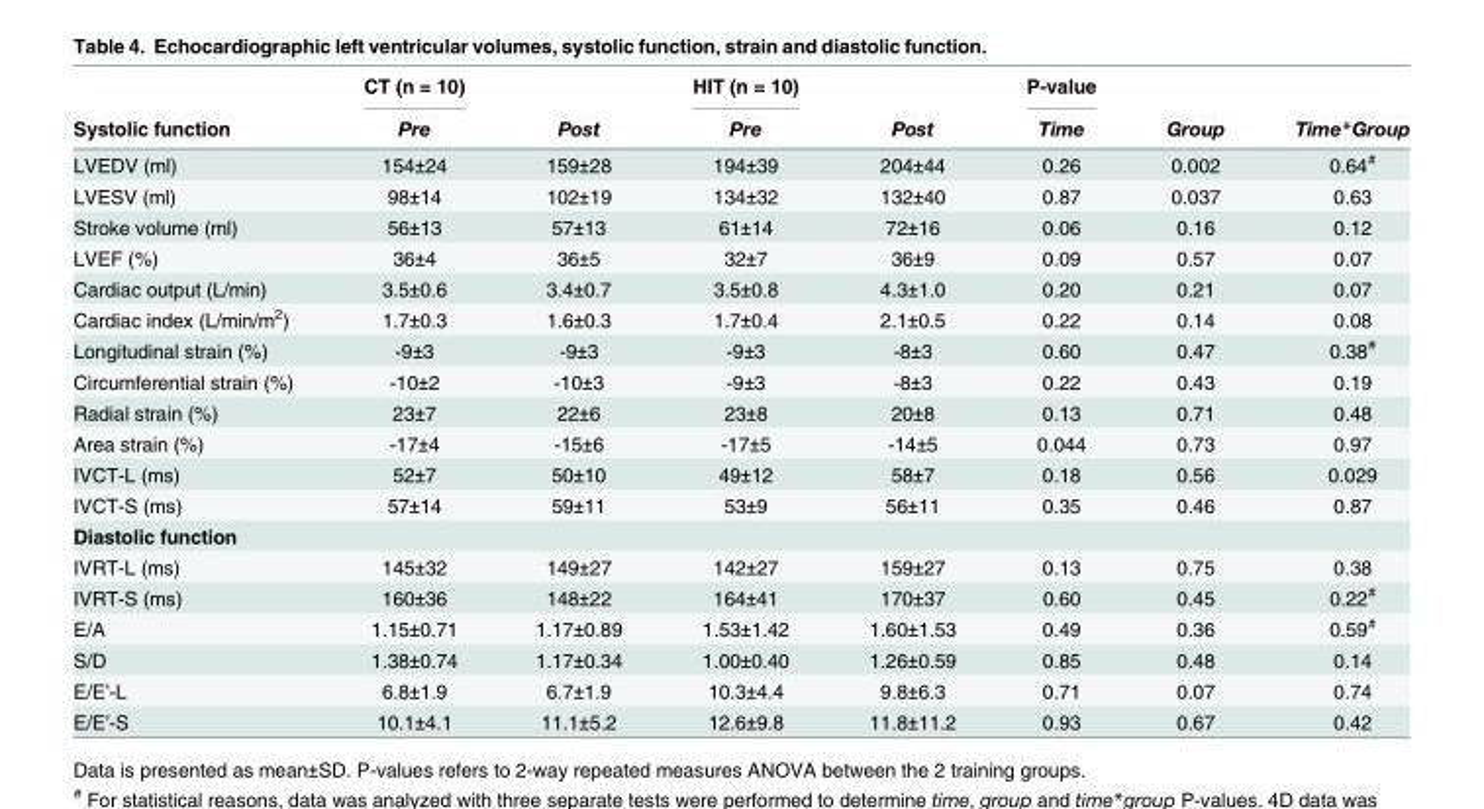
<table><thead><tr><td rowspan="2">Systolic function</td><td rowspan="2">CT (n = 10) Pre</td><td rowspan="2">Post</td><td rowspan="2">HIT (n = 10) Pre</td><td rowspan="2">Post</td><td rowspan="2">P-value Time</td><td rowspan="2">Group</td><td rowspan="2">Time*Group</td></tr><tr></tr></thead><tbody><tr><td>LVEDV (ml)</td><td>154±24</td><td>159±28</td><td>194±39</td><td>204±44</td><td>0.26</td><td>0.002</td><td>0.64<sup>#</sup></td></tr><tr><td>LVESV (ml)</td><td>98±14</td><td>102±19</td><td>134±32</td><td>132±40</td><td>0.87</td><td>0.037</td><td>0.63</td></tr><tr><td>Stroke volume (ml)</td><td>56±13</td><td>57±13</td><td>61±14</td><td>72±16</td><td>0.06</td><td>0.16</td><td>0.12</td></tr><tr><td>LVEF (%)</td><td>36±4</td><td>36±5</td><td>32±7</td><td>36±9</td><td>0.09</td><td>0.57</td><td>0.07</td></tr><tr><td>Cardiac output (L/min)</td><td>3.5±0.6</td><td>3.4±0.7</td><td>3.5±0.8</td><td>4.3±1.0</td><td>0.20</td><td>0.21</td><td>0.07</td></tr><tr><td>Cardiac index (L/min/m<sup>2</sup>)</td><td>1.7±0.3</td><td>1.6±0.3</td><td>1.7±0.4</td><td>2.1±0.5</td><td>0.22</td><td>0.14</td><td>0.08</td></tr><tr><td>Longitudinal strain (%)</td><td>-9±3</td><td>-9±3</td><td>-9±3</td><td>-8±3</td><td>0.60</td><td>0.47</td><td>0.38<sup>#</sup></td></tr><tr><td>Circumferential strain (%)</td><td>-10±2</td><td>-10±3</td><td>-9±3</td><td>-8±3</td><td>0.22</td><td>0.43</td><td>0.19</td></tr><tr><td>Radial strain (%)</td><td>23±7</td><td>22±6</td><td>23±8</td><td>20±8</td><td>0.13</td><td>0.71</td><td>0.48</td></tr><tr><td>Area strain (%)</td><td>-17±4</td><td>-15±6</td><td>-17±5</td><td>-14±5</td><td>0.044</td><td>0.73</td><td>0.97</td></tr><tr><td>IVCT-L (ms)</td><td>52±7</td><td>50±10</td><td>49±12</td><td>58±7</td><td>0.18</td><td>0.56</td><td>0.029</td></tr><tr><td>IVCT-S (ms)</td><td>57±14</td><td>59±11</td><td>53±9</td><td>56±11</td><td>0.35</td><td>0.46</td><td>0.87</td></tr><tr><td colspan="8">Diastolic function</td></tr><tr><td>IVRT-L (ms)</td><td>145±32</td><td>149±27</td><td>142±27</td><td>159±27</td><td>0.13</td><td>0.75</td><td>0.38</td></tr><tr><td>IVRT-S (ms)</td><td>160±36</td><td>148±22</td><td>164±41</td><td>170±37</td><td>0.60</td><td>0.45</td><td>0.22<sup>#</sup></td></tr><tr><td>E/A</td><td>1.15±0.71</td><td>1.17±0.89</td><td>1.53±1.42</td><td>1.60±1.53</td><td>0.49</td><td>0.36</td><td>0.59<sup>#</sup></td></tr><tr><td>S/D</td><td>1.38±0.74</td><td>1.17±0.34</td><td>1.00±0.40</td><td>1.26±0.59</td><td>0.85</td><td>0.48</td><td>0.14</td></tr><tr><td>E/E’-L</td><td>6.8±1.9</td><td>6.7±1.9</td><td>10.3±4.4</td><td>9.8±6.3</td><td>0.71</td><td>0.07</td><td>0.74</td></tr><tr><td>E/E’-S</td><td>10.1±4.1</td><td>11.1±5.2</td><td>12.6±9.8</td><td>11.8±11.2</td><td>0.93</td><td>0.67</td><td>0.42</td></tr></tbody></table>